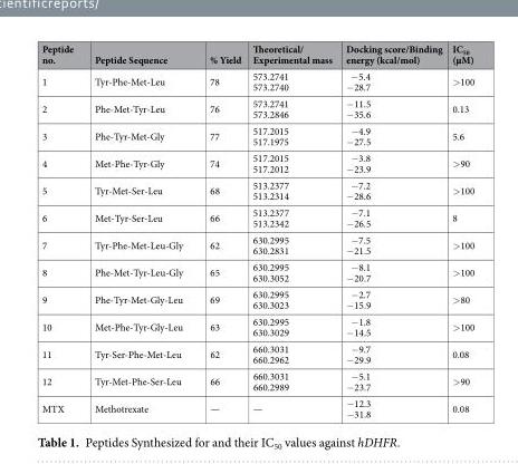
<table><thead><tr><td>Peptide no.</td><td>Peptide Sequence</td><td>% Yield</td><td>Theoretical/ Experimental mass</td><td>Docking score/Binding energy (kcal/mol)</td><td>IC<sub>50</sub> (µM)</td></tr></thead><tbody><tr><td>1</td><td>Tyr-Phe-Met-Leu</td><td>78</td><td>573.2741 573.2740</td><td>−5.4 −28.7</td><td>&gt;100</td></tr><tr><td>2</td><td>Phe-Met-Tyr-Leu</td><td>76</td><td>573.2741 573.2846</td><td>−11.5 −35.6</td><td>0.13</td></tr><tr><td>3</td><td>Phe-Tyr-Met-Gly</td><td>77</td><td>517.2015 517.1975</td><td>−4.9 −27.5</td><td>5.6</td></tr><tr><td>4</td><td>Met-Phe-Tyr-Gly</td><td>74</td><td>517.2015 517.2012</td><td>−3.8 −23.9</td><td>&gt;90</td></tr><tr><td>5</td><td>Tyr-Met-Ser-Leu</td><td>68</td><td>513.2377 513.2314</td><td>−7.2 −28.6</td><td>&gt;100</td></tr><tr><td>6</td><td>Met-Tyr-Ser-Leu</td><td>66</td><td>513.2377 513.2342</td><td>−7.1 −26.5</td><td>8</td></tr><tr><td>7</td><td>Tyr-Phe-Met-Leu-Gly</td><td>62</td><td>630.2995 630.2831</td><td>−7.5 −21.5</td><td>&gt;100</td></tr><tr><td>8</td><td>Phe-Met-Tyr-Leu-Gly</td><td>65</td><td>630.2995 630.3052</td><td>−8.1 −20.7</td><td>&gt;100</td></tr><tr><td>9</td><td>Phe-Tyr-Met-Gly-Leu</td><td>69</td><td>630.2995 630.3023</td><td>−2.7 −15.9</td><td>&gt;80</td></tr><tr><td>10</td><td>Met-Phe-Tyr-Gly-Leu</td><td>63</td><td>630.2995 630.3029</td><td>−1.8 −14.5</td><td>&gt;100</td></tr><tr><td>11</td><td>Tyr-Ser-Phe-Met-Leu</td><td>62</td><td>660.3031 660.2962</td><td>−9.7 −29.9</td><td>0.08</td></tr><tr><td>12</td><td>Tyr-Met-Phe-Ser-Leu</td><td>66</td><td>660.3031 660.2989</td><td>−5.1 −23.7</td><td>&gt;90</td></tr><tr><td>MTX</td><td>Methotrexate</td><td>—</td><td>—</td><td>−12.3 −31.8</td><td>0.08</td></tr></tbody></table>